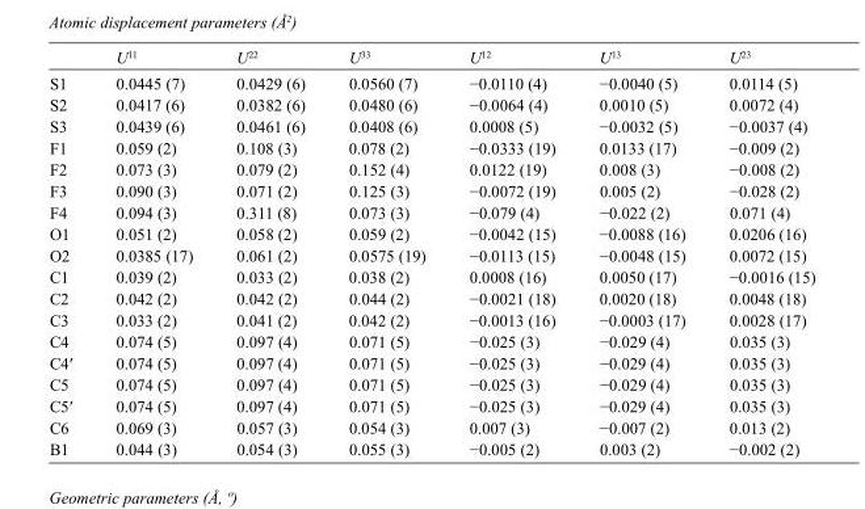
<table><thead><tr><td></td><td>U<sup>11</sup></td><td>U<sup>22</sup></td><td>U<sup>33</sup></td><td>U<sup>12</sup></td><td>U<sup>13</sup></td><td>U<sup>23</sup></td></tr></thead><tbody><tr><td>S1</td><td>0.0445 (7)</td><td>0.0429 (6)</td><td>0.0560 (7)</td><td>−0.0110 (4)</td><td>−0.0040 (5)</td><td>0.0114 (5)</td></tr><tr><td>S2</td><td>0.0417 (6)</td><td>0.0382 (6)</td><td>0.0480 (6)</td><td>−0.0064 (4)</td><td>0.0010 (5)</td><td>0.0072 (4)</td></tr><tr><td>S3</td><td>0.0439 (6)</td><td>0.0461 (6)</td><td>0.0408 (6)</td><td>0.0008 (5)</td><td>−0.0032 (5)</td><td>−0.0037 (4)</td></tr><tr><td>F1</td><td>0.059 (2)</td><td>0.108 (3)</td><td>0.078 (2)</td><td>−0.0333 (19)</td><td>0.0133 (17)</td><td>−0.009 (2)</td></tr><tr><td>F2</td><td>0.073 (3)</td><td>0.079 (2)</td><td>0.152 (4)</td><td>0.0122 (19)</td><td>0.008 (3)</td><td>−0.008 (2)</td></tr><tr><td>F3</td><td>0.090 (3)</td><td>0.071 (2)</td><td>0.125 (3)</td><td>−0.0072 (19)</td><td>0.005 (2)</td><td>−0.028 (2)</td></tr><tr><td>F4</td><td>0.094 (3)</td><td>0.311 (8)</td><td>0.073 (3)</td><td>−0.079 (4)</td><td>−0.022 (2)</td><td>0.071 (4)</td></tr><tr><td>O1</td><td>0.051 (2)</td><td>0.058 (2)</td><td>0.059 (2)</td><td>−0.0042 (15)</td><td>−0.0088 (16)</td><td>0.0206 (16)</td></tr><tr><td>O2</td><td>0.0385 (17)</td><td>0.061 (2)</td><td>0.0575 (19)</td><td>−0.0113 (15)</td><td>−0.0048 (15)</td><td>0.0072 (15)</td></tr><tr><td>C1</td><td>0.039 (2)</td><td>0.033 (2)</td><td>0.038 (2)</td><td>0.0008 (16)</td><td>0.0050 (17)</td><td>−0.0016 (15)</td></tr><tr><td>C2</td><td>0.042 (2)</td><td>0.042 (2)</td><td>0.044 (2)</td><td>−0.0021 (18)</td><td>0.0020 (18)</td><td>0.0048 (18)</td></tr><tr><td>C3</td><td>0.033 (2)</td><td>0.041 (2)</td><td>0.042 (2)</td><td>−0.0013 (16)</td><td>−0.0003 (17)</td><td>0.0028 (17)</td></tr><tr><td>C4</td><td>0.074 (5)</td><td>0.097 (4)</td><td>0.071 (5)</td><td>−0.025 (3)</td><td>−0.029 (4)</td><td>0.035 (3)</td></tr><tr><td>C4′</td><td>0.074 (5)</td><td>0.097 (4)</td><td>0.071 (5)</td><td>−0.025 (3)</td><td>−0.029 (4)</td><td>0.035 (3)</td></tr><tr><td>C5</td><td>0.074 (5)</td><td>0.097 (4)</td><td>0.071 (5)</td><td>−0.025 (3)</td><td>−0.029 (4)</td><td>0.035 (3)</td></tr><tr><td>C5′</td><td>0.074 (5)</td><td>0.097 (4)</td><td>0.071 (5)</td><td>−0.025 (3)</td><td>−0.029 (4)</td><td>0.035 (3)</td></tr><tr><td>C6</td><td>0.069 (3)</td><td>0.057 (3)</td><td>0.054 (3)</td><td>0.007 (3)</td><td>−0.007 (2)</td><td>0.013 (2)</td></tr><tr><td>B1</td><td>0.044 (3)</td><td>0.054 (3)</td><td>0.055 (3)</td><td>−0.005 (2)</td><td>0.003 (2)</td><td>−0.002 (2)</td></tr></tbody></table>